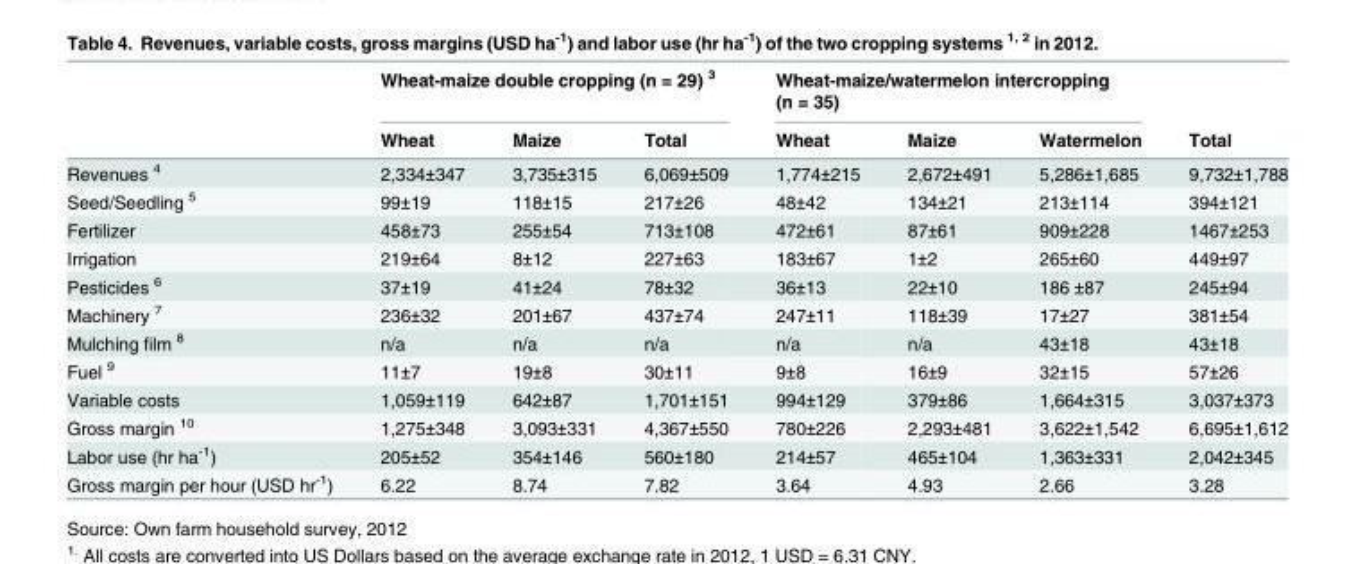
<table><thead><tr><td rowspan="2"></td><td colspan="3">Wheat-maize double cropping (n = 29) <sup>3</sup></td><td colspan="3">Wheat-maize/watermelon intercropping (n = 35)</td><td rowspan="2">Total</td></tr><tr><td>Wheat</td><td>Maize</td><td>Total</td><td>Wheat</td><td>Maize</td><td>Watermelon</td></tr></thead><tbody><tr><td>Revenues <sup>4</sup></td><td>2,334±347</td><td>3,735±315</td><td>6,069±509</td><td>1,774±215</td><td>2,672±491</td><td>5,286±1,685</td><td>9,732±1,788</td></tr><tr><td>Seed/Seedling <sup>5</sup></td><td>99±19</td><td>118±15</td><td>217±26</td><td>48±42</td><td>134±21</td><td>213±114</td><td>394±121</td></tr><tr><td>Fertilizer</td><td>458±73</td><td>255±54</td><td>713±108</td><td>472±61</td><td>87±61</td><td>909±228</td><td>1467±253</td></tr><tr><td>Irrigation</td><td>219±64</td><td>8±12</td><td>227±63</td><td>183±67</td><td>1±2</td><td>265±60</td><td>449±97</td></tr><tr><td>Pesticides <sup>6</sup></td><td>37±19</td><td>41±24</td><td>78±32</td><td>36±13</td><td>22±10</td><td>186 ±87</td><td>245±94</td></tr><tr><td>Machinery <sup>7</sup></td><td>236±32</td><td>201±67</td><td>437±74</td><td>247±11</td><td>118±39</td><td>17±27</td><td>381±54</td></tr><tr><td>Mulching film <sup>8</sup></td><td>n/a</td><td>n/a</td><td>n/a</td><td>n/a</td><td>n/a</td><td>43±18</td><td>43±18</td></tr><tr><td>Fuel <sup>9</sup></td><td>11±7</td><td>19±8</td><td>30±11</td><td>9±8</td><td>16±9</td><td>32±15</td><td>57±26</td></tr><tr><td>Variable costs</td><td>1,059±119</td><td>642±87</td><td>1,701±151</td><td>994±129</td><td>379±86</td><td>1,664±315</td><td>3,037±373</td></tr><tr><td>Gross margin <sup>10</sup></td><td>1,275±348</td><td>3,093±331</td><td>4,367±550</td><td>780±226</td><td>2,293±481</td><td>3,622±1,542</td><td>6,695±1,612</td></tr><tr><td>Labor use (hr ha<sup>-1</sup>)</td><td>205±52</td><td>354±146</td><td>560±180</td><td>214±57</td><td>465±104</td><td>1,363±331</td><td>2,042±345</td></tr><tr><td>Gross margin per hour (USD hr<sup>-1</sup>)</td><td>6.22</td><td>8.74</td><td>7.82</td><td>3.64</td><td>4.93</td><td>2.66</td><td>3.28</td></tr></tbody></table>